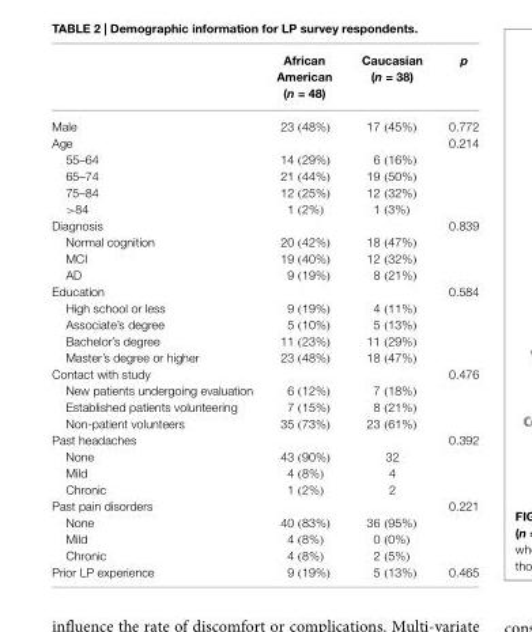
<table><thead><tr><td></td><td>African American (n = 48)</td><td>Caucasian (n = 38)</td><td>p</td></tr></thead><tbody><tr><td>Male</td><td>23 (48%)</td><td>17 (45%)</td><td>0.772</td></tr><tr><td>Age</td><td></td><td></td><td>0.214</td></tr><tr><td>55–64</td><td>14 (29%)</td><td>6 (16%)</td><td></td></tr><tr><td>65–74</td><td>21 (44%)</td><td>19 (50%)</td><td></td></tr><tr><td>75–84</td><td>12 (25%)</td><td>12 (32%)</td><td></td></tr><tr><td>&gt;84</td><td>1 (2%)</td><td>1 (3%)</td><td></td></tr><tr><td>Diagnosis</td><td></td><td></td><td>0.839</td></tr><tr><td>Normal cognition</td><td>20 (42%)</td><td>18 (47%)</td><td></td></tr><tr><td>MCI</td><td>19 (40%)</td><td>12 (32%)</td><td></td></tr><tr><td>AD</td><td>9 (19%)</td><td>8 (21%)</td><td></td></tr><tr><td>Education</td><td></td><td></td><td>0.584</td></tr><tr><td>High school or less</td><td>9 (19%)</td><td>4 (11%)</td><td></td></tr><tr><td>Associate’s degree</td><td>5 (10%)</td><td>5 (13%)</td><td></td></tr><tr><td>Bachelor’s degree</td><td>11 (23%)</td><td>11 (29%)</td><td></td></tr><tr><td>Master’s degree or higher</td><td>23 (48%)</td><td>18 (47%)</td><td></td></tr><tr><td>Contact with study</td><td></td><td></td><td>0.476</td></tr><tr><td>New patients undergoing evaluation</td><td>6 (12%)</td><td>7 (18%)</td><td></td></tr><tr><td>Established patients volunteering</td><td>7 (15%)</td><td>8 (21%)</td><td></td></tr><tr><td>Non-patient volunteers</td><td>35 (73%)</td><td>23 (61%)</td><td></td></tr><tr><td>Past headaches</td><td></td><td></td><td>0.392</td></tr><tr><td>None</td><td>43 (90%)</td><td>32</td><td></td></tr><tr><td>Mild</td><td>4 (8%)</td><td>4</td><td></td></tr><tr><td>Chronic</td><td>1 (2%)</td><td>2</td><td></td></tr><tr><td>Past pain disorders</td><td></td><td></td><td>0.221</td></tr><tr><td>None</td><td>40 (83%)</td><td>36 (95%)</td><td></td></tr><tr><td>Mild</td><td>4 (8%)</td><td>0 (0%)</td><td></td></tr><tr><td>Chronic</td><td>4 (8%)</td><td>2 (5%)</td><td></td></tr><tr><td>Prior LP experience</td><td>9 (19%)</td><td>5 (13%)</td><td>0.465</td></tr></tbody></table>